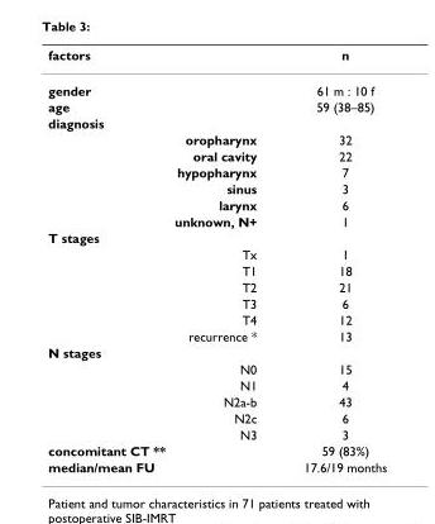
<table><thead><tr><td>factors</td><td>n</td></tr></thead><tbody><tr><td>gender</td><td>61 m : 10 f</td></tr><tr><td>age</td><td>59 (38–85)</td></tr><tr><td colspan="2">diagnosis</td></tr><tr><td>oropharynx</td><td>32</td></tr><tr><td>oral cavity</td><td>22</td></tr><tr><td>hypopharynx</td><td>7</td></tr><tr><td>sinus</td><td>3</td></tr><tr><td>larynx</td><td>6</td></tr><tr><td>unknown, N+</td><td>1</td></tr><tr><td colspan="2">T stages</td></tr><tr><td>Tx</td><td>1</td></tr><tr><td>T1</td><td>18</td></tr><tr><td>T2</td><td>21</td></tr><tr><td>T3</td><td>6</td></tr><tr><td>T4</td><td>12</td></tr><tr><td>recurrence *</td><td>13</td></tr><tr><td colspan="2">N stages</td></tr><tr><td>N0</td><td>15</td></tr><tr><td>N1</td><td>4</td></tr><tr><td>N2a-b</td><td>43</td></tr><tr><td>N2c</td><td>6</td></tr><tr><td>N3</td><td>3</td></tr><tr><td>concomitant CT **</td><td>59 (83%)</td></tr><tr><td>median/mean FU</td><td>17.6/19 months</td></tr></tbody></table>